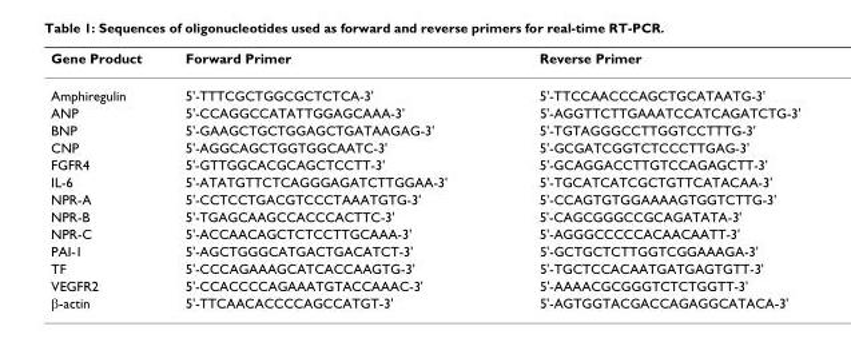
<table><thead><tr><td>Gene Product</td><td>Forward Primer</td><td>Reverse Primer</td></tr></thead><tbody><tr><td>Amphiregulin</td><td>5&#x27;-TTTCGCTGGCGCTCTCA-3&#x27;</td><td>5&#x27;-TTCCAACCCAGCTGCATAATG-3&#x27;</td></tr><tr><td>ANP</td><td>5&#x27;-CCAGGCCATATTGGAGCAAA-3&#x27;</td><td>5&#x27;-AGGTTCTTGAAATCCATCAGATCTG-3&#x27;</td></tr><tr><td>BNP</td><td>5&#x27;-GAAGCTGCTGGAGCTGATAAGAG-3&#x27;</td><td>5&#x27;-TGTAGGGCCTTGGTCCTTTG-3&#x27;</td></tr><tr><td>CNP</td><td>5&#x27;-AGGCAGCTGGTGGCAATC-3&#x27;</td><td>5&#x27;-GCGATCGGTCTCCCTTGAG-3&#x27;</td></tr><tr><td>FGFR4</td><td>5&#x27;-GTTGGCACGCAGCTCCTT-3&#x27;</td><td>5&#x27;-GCAGGACCTTGTCCAGAGCTT-3&#x27;</td></tr><tr><td>IL-6</td><td>5&#x27;-ATATGTTCTCAGGGAGATCTTGGAA-3&#x27;</td><td>5&#x27;-TGCATCATCGCTGTTCATACAA-3&#x27;</td></tr><tr><td>NPR-A</td><td>5&#x27;-CCTCCTGACGTCCCTAAATGTG-3&#x27;</td><td>5&#x27;-CCAGTGTGGAAAAGTGGTCTTG-3&#x27;</td></tr><tr><td>NPR-B</td><td>5&#x27;-TGAGCAAGCCACCCACTTC-3&#x27;</td><td>5&#x27;-CAGCGGGCCGCAGATATA-3&#x27;</td></tr><tr><td>NPR-C</td><td>5&#x27;-ACCAACAGCTCTCCTTGCAAA-3&#x27;</td><td>5&#x27;-AGGGCCCCCACAACAATT-3&#x27;</td></tr><tr><td>PAI-1</td><td>5&#x27;-AGCTGGGCATGACTGACATCT-3&#x27;</td><td>5&#x27;-GCTGCTCTTGGTCGGAAAGA-3&#x27;</td></tr><tr><td>TF</td><td>5&#x27;-CCCAGAAAGCATCACCAAGTG-3&#x27;</td><td>5&#x27;-TGCTCCACAATGATGAGTGTT-3&#x27;</td></tr><tr><td>VEGFR2</td><td>5&#x27;-CCACCCCAGAAATGTACCAAAC-3&#x27;</td><td>5&#x27;-AAAACGCGGGTCTCTGGTT-3&#x27;</td></tr><tr><td>β-actin</td><td>5&#x27;-TTCAACACCCCAGCCATGT-3&#x27;</td><td>5&#x27;-AGTGGTACGACCAGAGGCATACA-3&#x27;</td></tr></tbody></table>